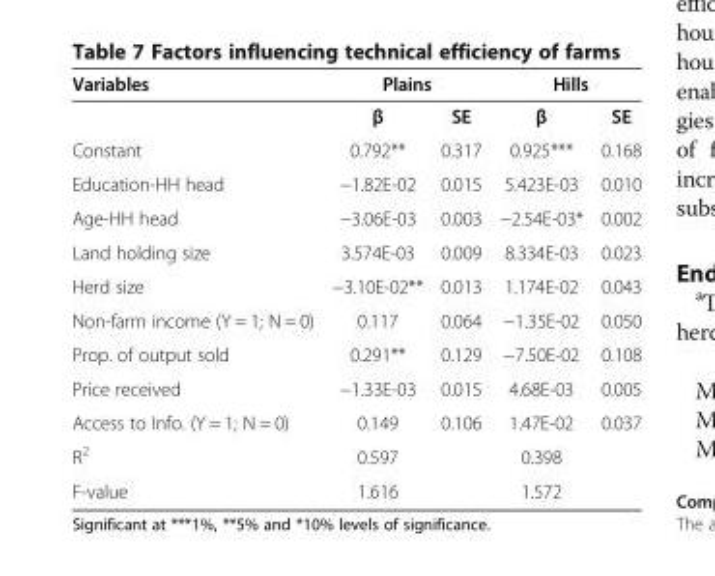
<table><thead><tr><td rowspan="2">Variables</td><td colspan="2">Plains</td><td colspan="2">Hills</td></tr><tr><td>β</td><td>SE</td><td>β</td><td>SE</td></tr></thead><tbody><tr><td>Constant</td><td>0.792**</td><td>0.317</td><td>0.925***</td><td>0.168</td></tr><tr><td>Education-HH head</td><td>−1.82E-02</td><td>0.015</td><td>5.423E-03</td><td>0.010</td></tr><tr><td>Age-HH head</td><td>−3.06E-03</td><td>0.003</td><td>−2.54E-03*</td><td>0.002</td></tr><tr><td>Land holding size</td><td>3.574E-03</td><td>0.009</td><td>8.334E-03</td><td>0.023</td></tr><tr><td>Herd size</td><td>−3.10E-02**</td><td>0.013</td><td>1.174E-02</td><td>0.043</td></tr><tr><td>Non-farm income (Y = 1; N = 0)</td><td>0.117</td><td>0.064</td><td>−1.35E-02</td><td>0.050</td></tr><tr><td>Prop. of output sold</td><td>0.291**</td><td>0.129</td><td>−7.50E-02</td><td>0.108</td></tr><tr><td>Price received</td><td>−1.33E-03</td><td>0.015</td><td>4.68E-03</td><td>0.005</td></tr><tr><td>Access to Info. (Y = 1; N = 0)</td><td>0.149</td><td>0.106</td><td>1.47E-02</td><td>0.037</td></tr><tr><td>R<sup>2</sup></td><td>0.597</td><td></td><td>0.398</td><td></td></tr><tr><td>F-value</td><td>1.616</td><td></td><td>1.572</td><td></td></tr></tbody></table>